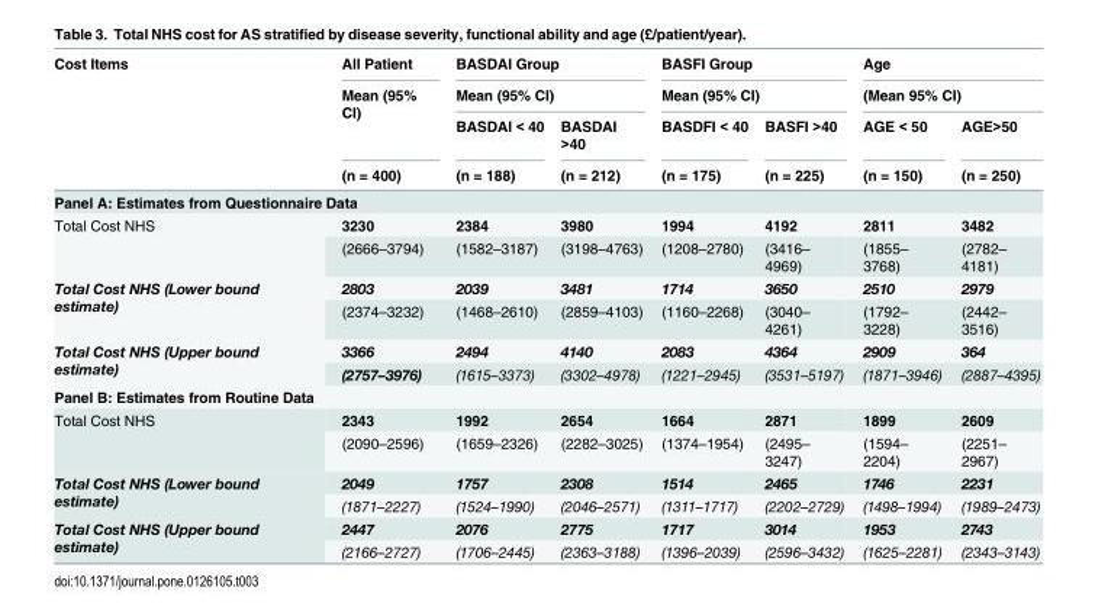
<table><thead><tr><td rowspan="4">Cost Items</td><td rowspan="4">All Patient Mean (95% CI) (n = 400)</td><td rowspan="2" colspan="2">BASDAI Group Mean (95% CI)</td><td rowspan="2" colspan="2">BASFI Group Mean (95% CI)</td><td rowspan="2" colspan="2">Age (Mean 95% CI)</td></tr><tr></tr><tr><td rowspan="2">BASDAI &lt; 40 (n = 188)</td><td rowspan="2">BASDAI &gt;40 (n = 212)</td><td rowspan="2">BASDFI &lt; 40 (n = 175)</td><td rowspan="2">BASFI &gt;40 (n = 225)</td><td rowspan="2">AGE &lt; 50 (n = 150)</td><td rowspan="2">AGE&gt;50 (n = 250)</td></tr><tr></tr></thead><tbody><tr><td colspan="8">Panel A: Estimates from Questionnaire Data</td></tr><tr><td rowspan="2">Total Cost NHS</td><td>3230</td><td>2384</td><td>3980</td><td>1994</td><td>4192</td><td>2811</td><td>3482</td></tr><tr><td>(2666–3794)</td><td>(1582–3187)</td><td>(3198–4763)</td><td>(1208–2780)</td><td>(3416– 4969)</td><td>(1855– 3768)</td><td>(2782– 4181)</td></tr><tr><td rowspan="2">Total Cost NHS (Lower bound estimate)</td><td>2803</td><td>2039</td><td>3481</td><td>1714</td><td>3650</td><td>2510</td><td>2979</td></tr><tr><td>(2374–3232)</td><td>(1468–2610)</td><td>(2859–4103)</td><td>(1160–2268)</td><td>(3040– 4261)</td><td>(1792– 3228)</td><td>(2442– 3516)</td></tr><tr><td rowspan="2">Total Cost NHS (Upper bound estimate)</td><td>3366</td><td>2494</td><td>4140</td><td>2083</td><td>4364</td><td>2909</td><td>364</td></tr><tr><td>(2757–3976)</td><td>(1615–3373)</td><td>(3302–4978)</td><td>(1221–2945)</td><td>(3531–5197)</td><td>(1871–3946)</td><td>(2887–4395)</td></tr><tr><td colspan="8">Panel B: Estimates from Routine Data</td></tr><tr><td rowspan="2">Total Cost NHS</td><td>2343</td><td>1992</td><td>2654</td><td>1664</td><td>2871</td><td>1899</td><td>2609</td></tr><tr><td>(2090–2596)</td><td>(1659–2326)</td><td>(2282–3025)</td><td>(1374–1954)</td><td>(2495– 3247)</td><td>(1594– 2204)</td><td>(2251– 2967)</td></tr><tr><td rowspan="2">Total Cost NHS (Lower bound estimate)</td><td>2049</td><td>1757</td><td>2308</td><td>1514</td><td>2465</td><td>1746</td><td>2231</td></tr><tr><td>(1871–2227)</td><td>(1524–1990)</td><td>(2046–2571)</td><td>(1311–1717)</td><td>(2202–2729)</td><td>(1498–1994)</td><td>(1989–2473)</td></tr><tr><td rowspan="2">Total Cost NHS (Upper bound estimate)</td><td>2447</td><td>2076</td><td>2775</td><td>1717</td><td>3014</td><td>1953</td><td>2743</td></tr><tr><td>(2166–2727)</td><td>(1706–2445)</td><td>(2363–3188)</td><td>(1396–2039)</td><td>(2596–3432)</td><td>(1625–2281)</td><td>(2343–3143)</td></tr></tbody></table>